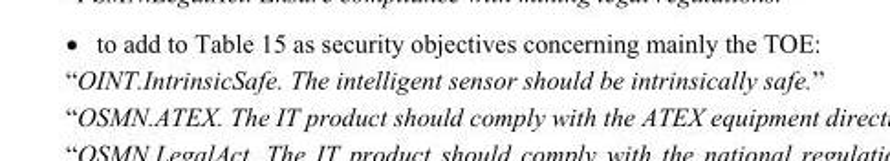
<table><tbody><tr><td>“OINT.IntrinsicSafe.</td><td>The intelligent sensor should be intrinsically safe.”</td></tr></tbody></table>